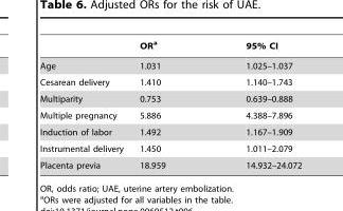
<table><thead><tr><td></td><td>OR<sup>a</sup></td><td>95% CI</td></tr></thead><tbody><tr><td>Age</td><td>1.031</td><td>1.025–1.037</td></tr><tr><td>Cesarean delivery</td><td>1.410</td><td>1.140–1.743</td></tr><tr><td>Multiparity</td><td>0.753</td><td>0.639–0.888</td></tr><tr><td>Multiple pregnancy</td><td>5.886</td><td>4.388–7.896</td></tr><tr><td>Induction of labor</td><td>1.492</td><td>1.167–1.909</td></tr><tr><td>Instrumental delivery</td><td>1.450</td><td>1.011–2.079</td></tr><tr><td>Placenta previa</td><td>18.959</td><td>14.932–24.072</td></tr></tbody></table>